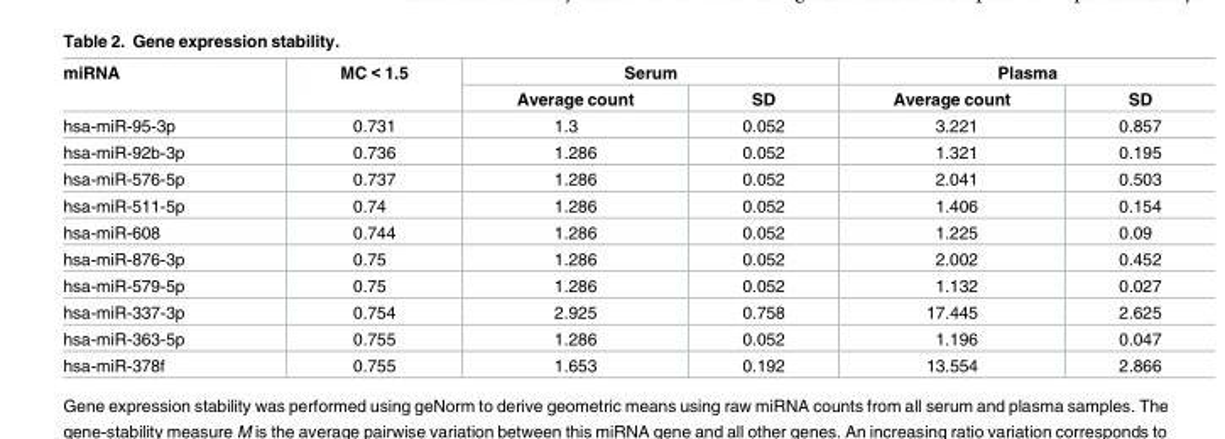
<table><thead><tr><td rowspan="2">miRNA</td><td rowspan="2">MC &lt; 1.5</td><td colspan="2">Serum</td><td colspan="2">Plasma</td></tr><tr><td>Average count</td><td>SD</td><td>Average count</td><td>SD</td></tr></thead><tbody><tr><td>hsa-miR-95-3p</td><td>0.731</td><td>1.3</td><td>0.052</td><td>3.221</td><td>0.857</td></tr><tr><td>hsa-miR-92b-3p</td><td>0.736</td><td>1.286</td><td>0.052</td><td>1.321</td><td>0.195</td></tr><tr><td>hsa-miR-576-5p</td><td>0.737</td><td>1.286</td><td>0.052</td><td>2.041</td><td>0.503</td></tr><tr><td>hsa-miR-511-5p</td><td>0.74</td><td>1.286</td><td>0.052</td><td>1.406</td><td>0.154</td></tr><tr><td>hsa-miR-608</td><td>0.744</td><td>1.286</td><td>0.052</td><td>1.225</td><td>0.09</td></tr><tr><td>hsa-miR-876-3p</td><td>0.75</td><td>1.286</td><td>0.052</td><td>2.002</td><td>0.452</td></tr><tr><td>hsa-miR-579-5p</td><td>0.75</td><td>1.286</td><td>0.052</td><td>1.132</td><td>0.027</td></tr><tr><td>hsa-miR-337-3p</td><td>0.754</td><td>2.925</td><td>0.758</td><td>17.445</td><td>2.625</td></tr><tr><td>hsa-miR-363-5p</td><td>0.755</td><td>1.286</td><td>0.052</td><td>1.196</td><td>0.047</td></tr><tr><td>hsa-miR-378f</td><td>0.755</td><td>1.653</td><td>0.192</td><td>13.554</td><td>2.866</td></tr></tbody></table>